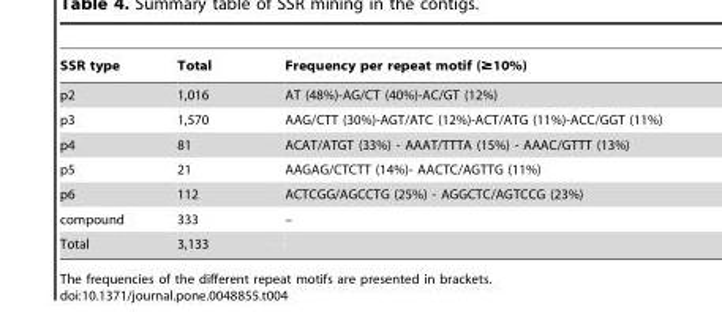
<table><thead><tr><td>SSR type</td><td>Total</td><td>Frequency per repeat motif (≥10%)</td></tr></thead><tbody><tr><td>p2</td><td>1,016</td><td>AT (48%)-AG/CT (40%)-AC/GT (12%)</td></tr><tr><td>p3</td><td>1,570</td><td>AAG/CTT (30%)-AGT/ATC (12%)-ACT/ATG (11%)-ACC/GGT (11%)</td></tr><tr><td>p4</td><td>81</td><td>ACAT/ATGT (33%) - AAAT/TTTA (15%) - AAAC/GTTT (13%)</td></tr><tr><td>p5</td><td>21</td><td>AAGAG/CTCTT (14%)- AACTC/AGTTG (11%)</td></tr><tr><td>p6</td><td>112</td><td>ACTCGG/AGCCTG (25%) - AGGCTC/AGTCCG (23%)</td></tr><tr><td>compound</td><td>333</td><td>–</td></tr><tr><td>Total</td><td>3,133</td><td></td></tr></tbody></table>